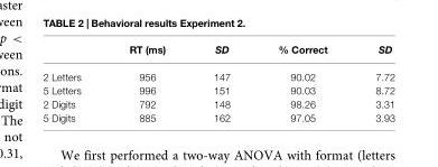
<table><thead><tr><td></td><td>RT (ms)</td><td>SD</td><td>% Correct</td><td>SD</td></tr></thead><tbody><tr><td>2 Letters</td><td>956</td><td>147</td><td>90.02</td><td>7.72</td></tr><tr><td>5 Letters</td><td>996</td><td>151</td><td>90.03</td><td>8.72</td></tr><tr><td>2 Digits</td><td>792</td><td>148</td><td>98.26</td><td>3.31</td></tr><tr><td>5 Digits</td><td>885</td><td>162</td><td>97.05</td><td>3.93</td></tr></tbody></table>